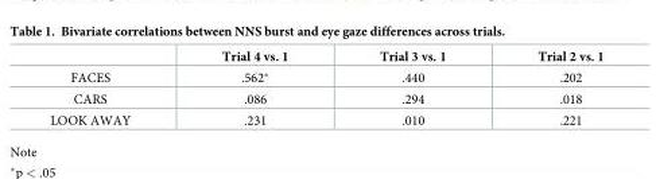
<table><thead><tr><td></td><td>Trial 4 vs. 1</td><td>Trial 3 vs. 1</td><td>Trial 2 vs. 1</td></tr></thead><tbody><tr><td>FACES</td><td>.562*</td><td>.440</td><td>.202</td></tr><tr><td>CARS</td><td>.086</td><td>.294</td><td>.018</td></tr><tr><td>LOOK AWAY</td><td>.231</td><td>.010</td><td>.221</td></tr></tbody></table>